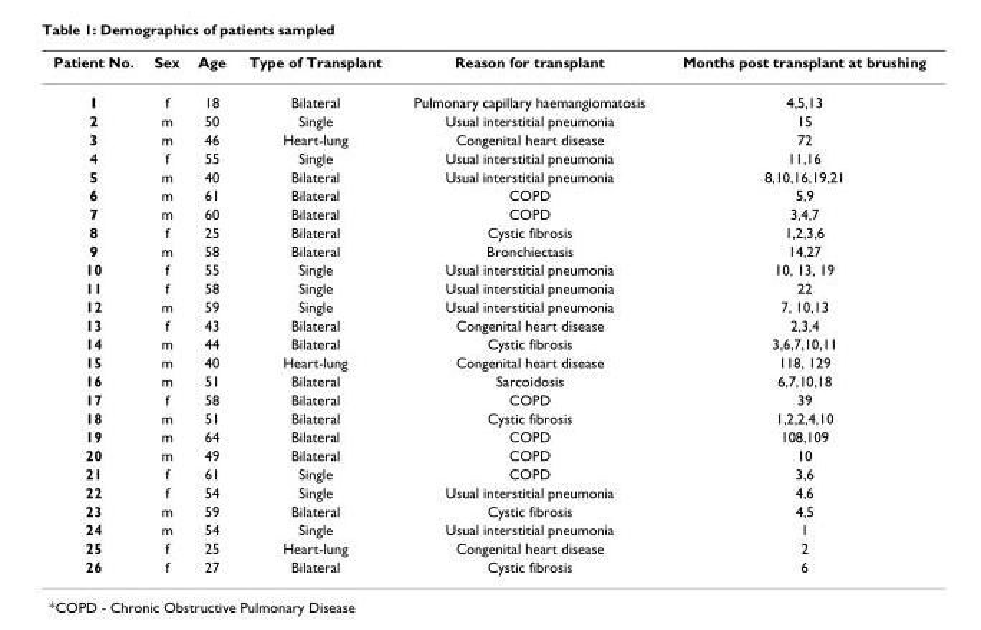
<table><thead><tr><td>Patient No.</td><td>Sex</td><td>Age</td><td>Type of Transplant</td><td>Reason for transplant</td><td>Months post transplant at brushing</td></tr></thead><tbody><tr><td>1</td><td>f</td><td>18</td><td>Bilateral</td><td>Pulmonary capillary haemangiomatosis</td><td>4,5,13</td></tr><tr><td>2</td><td>m</td><td>50</td><td>Single</td><td>Usual interstitial pneumonia</td><td>15</td></tr><tr><td>3</td><td>m</td><td>46</td><td>Heart-lung</td><td>Congenital heart disease</td><td>72</td></tr><tr><td>4</td><td>f</td><td>55</td><td>Single</td><td>Usual interstitial pneumonia</td><td>11,16</td></tr><tr><td>5</td><td>m</td><td>40</td><td>Bilateral</td><td>Usual interstitial pneumonia</td><td>8,10,16,19,21</td></tr><tr><td>6</td><td>m</td><td>61</td><td>Bilateral</td><td>COPD</td><td>5,9</td></tr><tr><td>7</td><td>m</td><td>60</td><td>Bilateral</td><td>COPD</td><td>3,4,7</td></tr><tr><td>8</td><td>f</td><td>25</td><td>Bilateral</td><td>Cystic fibrosis</td><td>1,2,3,6</td></tr><tr><td>9</td><td>m</td><td>58</td><td>Bilateral</td><td>Bronchiectasis</td><td>14,27</td></tr><tr><td>10</td><td>f</td><td>55</td><td>Single</td><td>Usual interstitial pneumonia</td><td>10, 13, 19</td></tr><tr><td>11</td><td>f</td><td>58</td><td>Single</td><td>Usual interstitial pneumonia</td><td>22</td></tr><tr><td>12</td><td>m</td><td>59</td><td>Single</td><td>Usual interstitial pneumonia</td><td>7, 10,13</td></tr><tr><td>13</td><td>f</td><td>43</td><td>Bilateral</td><td>Congenital heart disease</td><td>2,3,4</td></tr><tr><td>14</td><td>m</td><td>44</td><td>Bilateral</td><td>Cystic fibrosis</td><td>3,6,7,10,11</td></tr><tr><td>15</td><td>m</td><td>40</td><td>Heart-lung</td><td>Congenital heart disease</td><td>118, 129</td></tr><tr><td>16</td><td>m</td><td>51</td><td>Bilateral</td><td>Sarcoidosis</td><td>6,7,10,18</td></tr><tr><td>17</td><td>f</td><td>58</td><td>Bilateral</td><td>COPD</td><td>39</td></tr><tr><td>18</td><td>m</td><td>51</td><td>Bilateral</td><td>Cystic fibrosis</td><td>1,2,2,4,10</td></tr><tr><td>19</td><td>m</td><td>64</td><td>Bilateral</td><td>COPD</td><td>108,109</td></tr><tr><td>20</td><td>m</td><td>49</td><td>Bilateral</td><td>COPD</td><td>10</td></tr><tr><td>21</td><td>f</td><td>61</td><td>Single</td><td>COPD</td><td>3,6</td></tr><tr><td>22</td><td>f</td><td>54</td><td>Single</td><td>Usual interstitial pneumonia</td><td>4,6</td></tr><tr><td>23</td><td>m</td><td>59</td><td>Bilateral</td><td>Cystic fibrosis</td><td>4,5</td></tr><tr><td>24</td><td>m</td><td>54</td><td>Single</td><td>Usual interstitial pneumonia</td><td>1</td></tr><tr><td>25</td><td>f</td><td>25</td><td>Heart-lung</td><td>Congenital heart disease</td><td>2</td></tr><tr><td>26</td><td>f</td><td>27</td><td>Bilateral</td><td>Cystic fibrosis</td><td>6</td></tr></tbody></table>